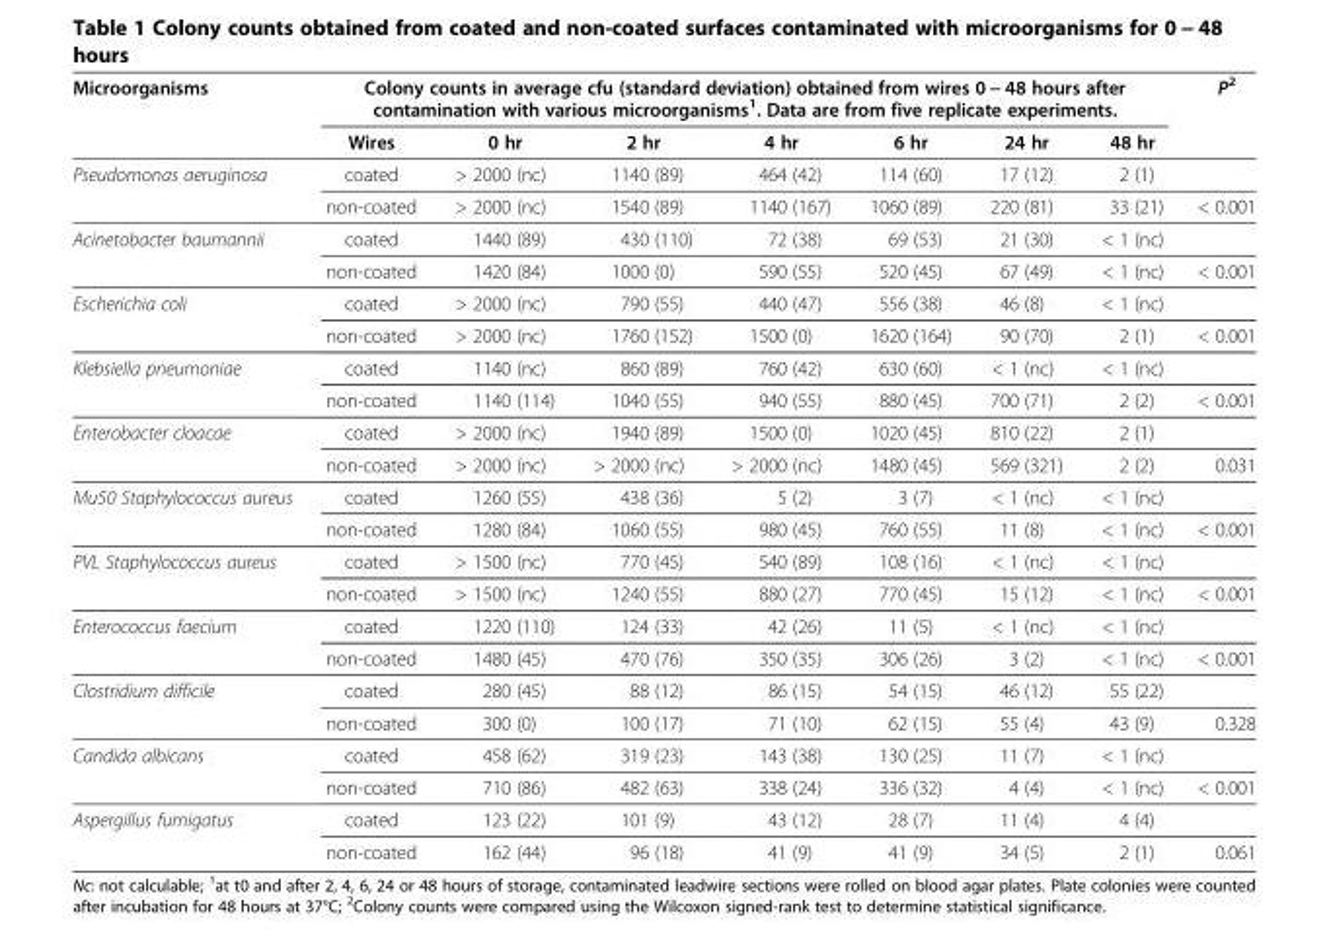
<table><thead><tr><td rowspan="2">Microorganisms</td><td colspan="7">Colony counts in average cfu (standard deviation) obtained from wires 0 − 48 hours after contamination with various microorganisms<sup>1</sup>. Data are from five replicate experiments.</td><td rowspan="2">P<sup>2</sup></td></tr><tr><td>Wires</td><td>0 hr</td><td>2 hr</td><td>4 hr</td><td>6 hr</td><td>24 hr</td><td>48 hr</td></tr></thead><tbody><tr><td rowspan="2">Pseudomonas aeruginosa</td><td>coated</td><td>&gt; 2000 (nc)</td><td>1140 (89)</td><td>464 (42)</td><td>114 (60)</td><td>17 (12)</td><td>2 (1)</td><td></td></tr><tr><td>non-coated</td><td>&gt; 2000 (nc)</td><td>1540 (89)</td><td>1140 (167)</td><td>1060 (89)</td><td>220 (81)</td><td>33 (21)</td><td>&lt; 0.001</td></tr><tr><td rowspan="2">Acinetobacter baumannii</td><td>coated</td><td>1440 (89)</td><td>430 (110)</td><td>72 (38)</td><td>69 (53)</td><td>21 (30)</td><td>&lt; 1 (nc)</td><td></td></tr><tr><td>non-coated</td><td>1420 (84)</td><td>1000 (0)</td><td>590 (55)</td><td>520 (45)</td><td>67 (49)</td><td>&lt; 1 (nc)</td><td>&lt; 0.001</td></tr><tr><td rowspan="2">Escherichia coli</td><td>coated</td><td>&gt; 2000 (nc)</td><td>790 (55)</td><td>440 (47)</td><td>556 (38)</td><td>46 (8)</td><td>&lt; 1 (nc)</td><td></td></tr><tr><td>non-coated</td><td>&gt; 2000 (nc)</td><td>1760 (152)</td><td>1500 (0)</td><td>1620 (164)</td><td>90 (70)</td><td>2 (1)</td><td>&lt; 0.001</td></tr><tr><td rowspan="2">Klebsiella pneumoniae</td><td>coated</td><td>1140 (nc)</td><td>860 (89)</td><td>760 (42)</td><td>630 (60)</td><td>&lt; 1 (nc)</td><td>&lt; 1 (nc)</td><td></td></tr><tr><td>non-coated</td><td>1140 (114)</td><td>1040 (55)</td><td>940 (55)</td><td>880 (45)</td><td>700 (71)</td><td>2 (2)</td><td>&lt; 0.001</td></tr><tr><td rowspan="2">Enterobacter cloacae</td><td>coated</td><td>&gt; 2000 (nc)</td><td>1940 (89)</td><td>1500 (0)</td><td>1020 (45)</td><td>810 (22)</td><td>2 (1)</td><td></td></tr><tr><td>non-coated</td><td>&gt; 2000 (nc)</td><td>&gt; 2000 (nc)</td><td>&gt; 2000 (nc)</td><td>1480 (45)</td><td>569 (321)</td><td>2 (2)</td><td>0.031</td></tr><tr><td rowspan="2">Mu50 Staphylococcus aureus</td><td>coated</td><td>1260 (55)</td><td>438 (36)</td><td>5 (2)</td><td>3 (7)</td><td>&lt; 1 (nc)</td><td>&lt; 1 (nc)</td><td></td></tr><tr><td>non-coated</td><td>1280 (84)</td><td>1060 (55)</td><td>980 (45)</td><td>760 (55)</td><td>11 (8)</td><td>&lt; 1 (nc)</td><td>&lt; 0.001</td></tr><tr><td rowspan="2">PVL Staphylococcus aureus</td><td>coated</td><td>&gt; 1500 (nc)</td><td>770 (45)</td><td>540 (89)</td><td>108 (16)</td><td>&lt; 1 (nc)</td><td>&lt; 1 (nc)</td><td></td></tr><tr><td>non-coated</td><td>&gt; 1500 (nc)</td><td>1240 (55)</td><td>880 (27)</td><td>770 (45)</td><td>15 (12)</td><td>&lt; 1 (nc)</td><td>&lt; 0.001</td></tr><tr><td rowspan="2">Enterococcus faecium</td><td>coated</td><td>1220 (110)</td><td>124 (33)</td><td>42 (26)</td><td>11 (5)</td><td>&lt; 1 (nc)</td><td>&lt; 1 (nc)</td><td></td></tr><tr><td>non-coated</td><td>1480 (45)</td><td>470 (76)</td><td>350 (35)</td><td>306 (26)</td><td>3 (2)</td><td>&lt; 1 (nc)</td><td>&lt; 0.001</td></tr><tr><td rowspan="2">Clostridium difficile</td><td>coated</td><td>280 (45)</td><td>88 (12)</td><td>86 (15)</td><td>54 (15)</td><td>46 (12)</td><td>55 (22)</td><td></td></tr><tr><td>non-coated</td><td>300 (0)</td><td>100 (17)</td><td>71 (10)</td><td>62 (15)</td><td>55 (4)</td><td>43 (9)</td><td>0.328</td></tr><tr><td rowspan="2">Candida albicans</td><td>coated</td><td>458 (62)</td><td>319 (23)</td><td>143 (38)</td><td>130 (25)</td><td>11 (7)</td><td>&lt; 1 (nc)</td><td></td></tr><tr><td>non-coated</td><td>710 (86)</td><td>482 (63)</td><td>338 (24)</td><td>336 (32)</td><td>4 (4)</td><td>&lt; 1 (nc)</td><td>&lt; 0.001</td></tr><tr><td rowspan="2">Aspergillus fumigatus</td><td>coated</td><td>123 (22)</td><td>101 (9)</td><td>43 (12)</td><td>28 (7)</td><td>11 (4)</td><td>4 (4)</td><td></td></tr><tr><td>non-coated</td><td>162 (44)</td><td>96 (18)</td><td>41 (9)</td><td>41 (9)</td><td>34 (5)</td><td>2 (1)</td><td>0.061</td></tr></tbody></table>